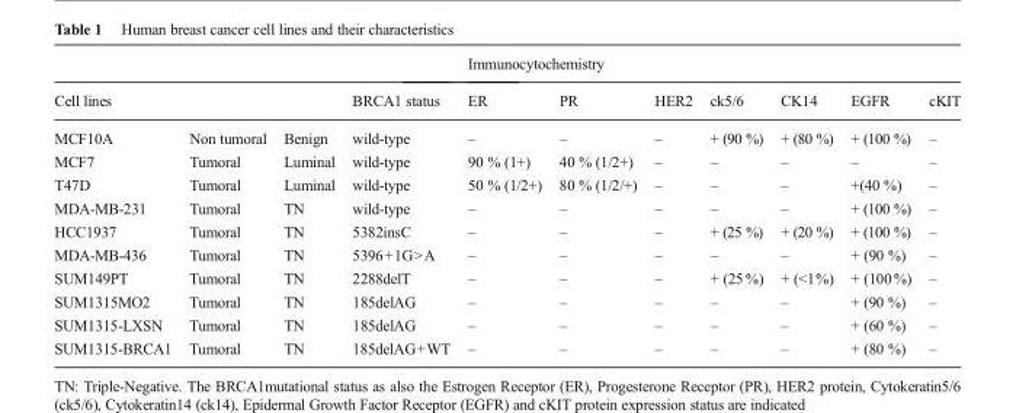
<table><thead><tr><td rowspan="2">Cell lines</td><td rowspan="2"></td><td rowspan="2"></td><td rowspan="2">BRCA1 status</td><td colspan="7">Immunocytochemistry</td></tr><tr><td>ER</td><td>PR</td><td>HER2</td><td>ck5/6</td><td>CK14</td><td>EGFR</td><td>cKIT</td></tr></thead><tbody><tr><td>MCF10A</td><td>Non tumoral</td><td>Benign</td><td>wild-type</td><td>–</td><td>–</td><td>–</td><td>+ (90 %)</td><td>+ (80 %)</td><td>+ (100 %)</td><td>–</td></tr><tr><td>MCF7</td><td>Tumoral</td><td>Luminal</td><td>wild-type</td><td>90 % (1+)</td><td>40 % (1/2+)</td><td>–</td><td>–</td><td>–</td><td>–</td><td>–</td></tr><tr><td>T47D</td><td>Tumoral</td><td>Luminal</td><td>wild-type</td><td>50 % (1/2+)</td><td>80 % (1/2/+)</td><td>–</td><td>–</td><td>–</td><td>+(40 %)</td><td>–</td></tr><tr><td>MDA-MB-231</td><td>Tumoral</td><td>TN</td><td>wild-type</td><td>–</td><td>–</td><td>–</td><td>–</td><td>–</td><td>+ (100 %)</td><td>–</td></tr><tr><td>HCC1937</td><td>Tumoral</td><td>TN</td><td>5382insC</td><td>–</td><td>–</td><td>–</td><td>+ (25 %)</td><td>+ (20 %)</td><td>+ (100 %)</td><td>–</td></tr><tr><td>MDA-MB-436</td><td>Tumoral</td><td>TN</td><td>5396+1G&gt;A</td><td>–</td><td>–</td><td>–</td><td>–</td><td>–</td><td>+ (90 %)</td><td>–</td></tr><tr><td>SUM149PT</td><td>Tumoral</td><td>TN</td><td>2288delT</td><td>–</td><td>–</td><td>–</td><td>+ (25 %)</td><td>+ (&lt;1%)</td><td>+ (100%)</td><td>–</td></tr><tr><td>SUM1315MO2</td><td>Tumoral</td><td>TN</td><td>185delAG</td><td>–</td><td>–</td><td>–</td><td>–</td><td>–</td><td>+ (90 %)</td><td>–</td></tr><tr><td>SUM1315-LXSN</td><td>Tumoral</td><td>TN</td><td>185delAG</td><td>–</td><td>–</td><td>–</td><td>–</td><td>–</td><td>+ (60 %)</td><td>–</td></tr><tr><td>SUM1315-BRCA1</td><td>Tumoral</td><td>TN</td><td>185delAG+WT</td><td>–</td><td>–</td><td>–</td><td>–</td><td>–</td><td>+ (80 %)</td><td>–</td></tr></tbody></table>